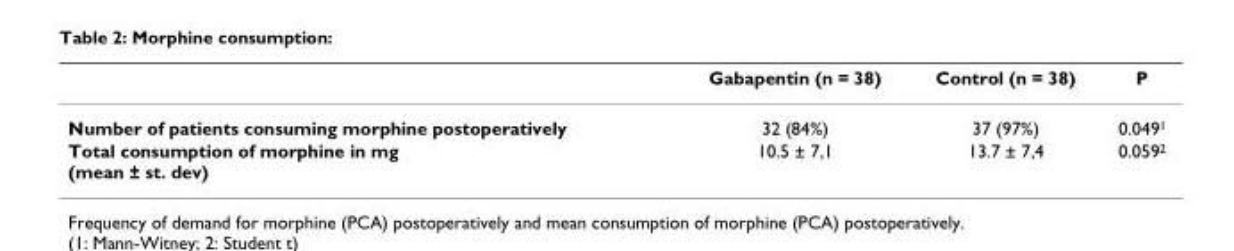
<table><thead><tr><td></td><td>Gabapentin (n = 38)</td><td>Control (n = 38)</td><td>P</td></tr></thead><tbody><tr><td>Number of patients consuming morphine postoperatively</td><td>32 (84%)</td><td>37 (97%)</td><td>0.049<sup>1</sup></td></tr><tr><td>Total consumption of morphine in mg (mean ± st. dev)</td><td>10.5 ± 7,1</td><td>13.7 ± 7,4</td><td>0.059<sup>2</sup></td></tr></tbody></table>